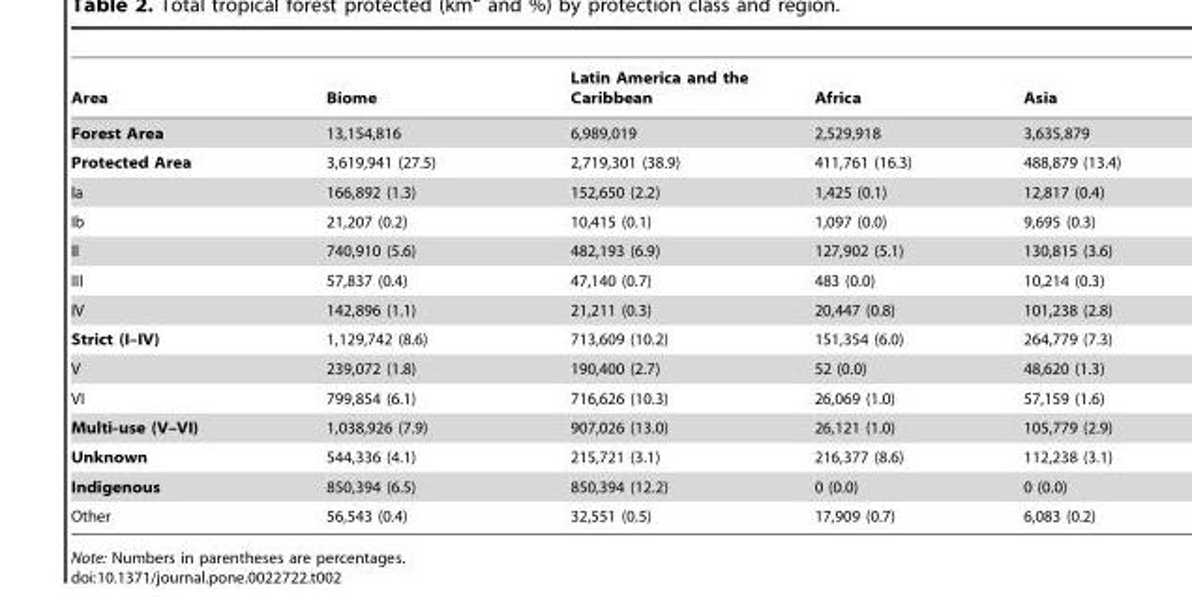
<table><thead><tr><td>Area</td><td>Biome</td><td>Latin America and the Caribbean</td><td>Africa</td><td>Asia</td></tr></thead><tbody><tr><td>Forest Area</td><td>13,154,816</td><td>6,989,019</td><td>2,529,918</td><td>3,635,879</td></tr><tr><td>Protected Area</td><td>3,619,941 (27.5)</td><td>2,719,301 (38.9)</td><td>411,761 (16.3)</td><td>488,879 (13.4)</td></tr><tr><td>Ia</td><td>166,892 (1.3)</td><td>152,650 (2.2)</td><td>1,425 (0.1)</td><td>12,817 (0.4)</td></tr><tr><td>Ib</td><td>21,207 (0.2)</td><td>10,415 (0.1)</td><td>1,097 (0.0)</td><td>9,695 (0.3)</td></tr><tr><td>II</td><td>740,910 (5.6)</td><td>482,193 (6.9)</td><td>127,902 (5.1)</td><td>130,815 (3.6)</td></tr><tr><td>III</td><td>57,837 (0.4)</td><td>47,140 (0.7)</td><td>483 (0.0)</td><td>10,214 (0.3)</td></tr><tr><td>IV</td><td>142,896 (1.1)</td><td>21,211 (0.3)</td><td>20,447 (0.8)</td><td>101,238 (2.8)</td></tr><tr><td>Strict (I–IV)</td><td>1,129,742 (8.6)</td><td>713,609 (10.2)</td><td>151,354 (6.0)</td><td>264,779 (7.3)</td></tr><tr><td>V</td><td>239,072 (1.8)</td><td>190,400 (2.7)</td><td>52 (0.0)</td><td>48,620 (1.3)</td></tr><tr><td>VI</td><td>799,854 (6.1)</td><td>716,626 (10.3)</td><td>26,069 (1.0)</td><td>57,159 (1.6)</td></tr><tr><td>Multi-use (V–VI)</td><td>1,038,926 (7.9)</td><td>907,026 (13.0)</td><td>26,121 (1.0)</td><td>105,779 (2.9)</td></tr><tr><td>Unknown</td><td>544,336 (4.1)</td><td>215,721 (3.1)</td><td>216,377 (8.6)</td><td>112,238 (3.1)</td></tr><tr><td>Indigenous</td><td>850,394 (6.5)</td><td>850,394 (12.2)</td><td>0 (0.0)</td><td>0 (0.0)</td></tr><tr><td>Other</td><td>56,543 (0.4)</td><td>32,551 (0.5)</td><td>17,909 (0.7)</td><td>6,083 (0.2)</td></tr></tbody></table>